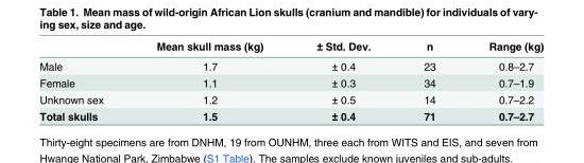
<table><thead><tr><td></td><td>Mean skull mass (kg)</td><td>± Std. Dev.</td><td>n</td><td>Range (kg)</td></tr></thead><tbody><tr><td>Male</td><td>1.7</td><td>± 0.4</td><td>23</td><td>0.8–2.7</td></tr><tr><td>Female</td><td>1.1</td><td>± 0.3</td><td>34</td><td>0.7–1.9</td></tr><tr><td>Unknown sex</td><td>1.2</td><td>± 0.5</td><td>14</td><td>0.7–2.2</td></tr><tr><td>Total skulls</td><td>1.5</td><td>± 0.4</td><td>71</td><td>0.7–2.7</td></tr></tbody></table>